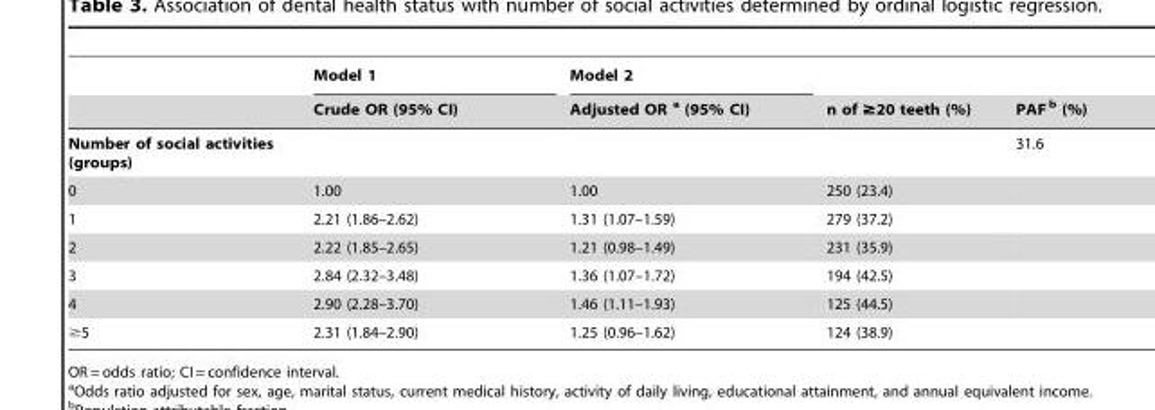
<table><thead><tr><td rowspan="2"></td><td rowspan="2">Model 1 Crude OR (95% CI)</td><td rowspan="2">Model 2 Adjusted OR a (95% CI)</td><td rowspan="2">n of ≥20 teeth (%)</td><td rowspan="2">PAF <sup>b</sup> (%)</td></tr><tr></tr></thead><tbody><tr><td>Number of social activities (groups)</td><td></td><td></td><td></td><td>31.6</td></tr><tr><td>0</td><td>1.00</td><td>1.00</td><td>250 (23.4)</td><td></td></tr><tr><td>1</td><td>2.21 (1.86–2.62)</td><td>1.31 (1.07–1.59)</td><td>279 (37.2)</td><td></td></tr><tr><td>2</td><td>2.22 (1.85–2.65)</td><td>1.21 (0.98–1.49)</td><td>231 (35.9)</td><td></td></tr><tr><td>3</td><td>2.84 (2.32–3.48)</td><td>1.36 (1.07–1.72)</td><td>194 (42.5)</td><td></td></tr><tr><td>4</td><td>2.90 (2.28–3.70)</td><td>1.46 (1.11–1.93)</td><td>125 (44.5)</td><td></td></tr><tr><td>≥5</td><td>2.31 (1.84–2.90)</td><td>1.25 (0.96–1.62)</td><td>124 (38.9)</td><td></td></tr></tbody></table>